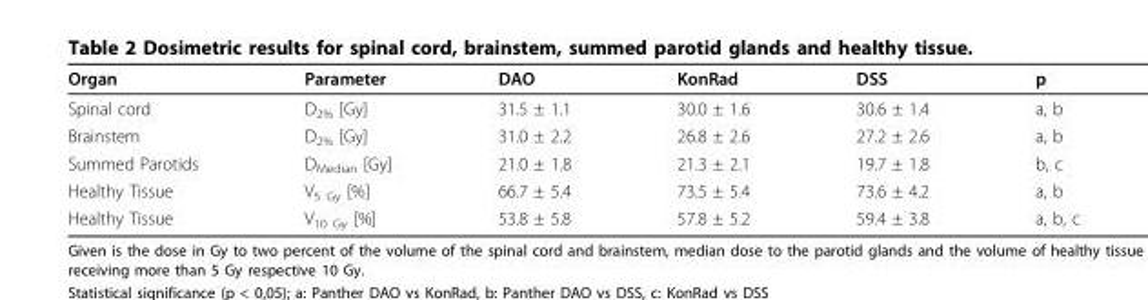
<table><thead><tr><td>Organ</td><td>Parameter</td><td>DAO</td><td>KonRad</td><td>DSS</td><td>p</td></tr></thead><tbody><tr><td>Spinal cord</td><td>D<sub>2%</sub> [Gy]</td><td>31.5 ± 1.1</td><td>30.0 ± 1.6</td><td>30.6 ± 1.4</td><td>a, b</td></tr><tr><td>Brainstem</td><td>D<sub>2%</sub> [Gy]</td><td>31.0 ± 2.2</td><td>26.8 ± 2.6</td><td>27.2 ± 2.6</td><td>a, b</td></tr><tr><td>Summed Parotids</td><td>D<sub>Median</sub> [Gy]</td><td>21.0 ± 1.8</td><td>21.3 ± 2.1</td><td>19.7 ± 1.8</td><td>b, c</td></tr><tr><td>Healthy Tissue</td><td>V<sub>5 Gy</sub> [%]</td><td>66.7 ± 5.4</td><td>73.5 ± 5.4</td><td>73.6 ± 4.2</td><td>a, b</td></tr><tr><td>Healthy Tissue</td><td>V<sub>10 Gy</sub> [%]</td><td>53.8 ± 5.8</td><td>57.8 ± 5.2</td><td>59.4 ± 3.8</td><td>a, b, c</td></tr></tbody></table>